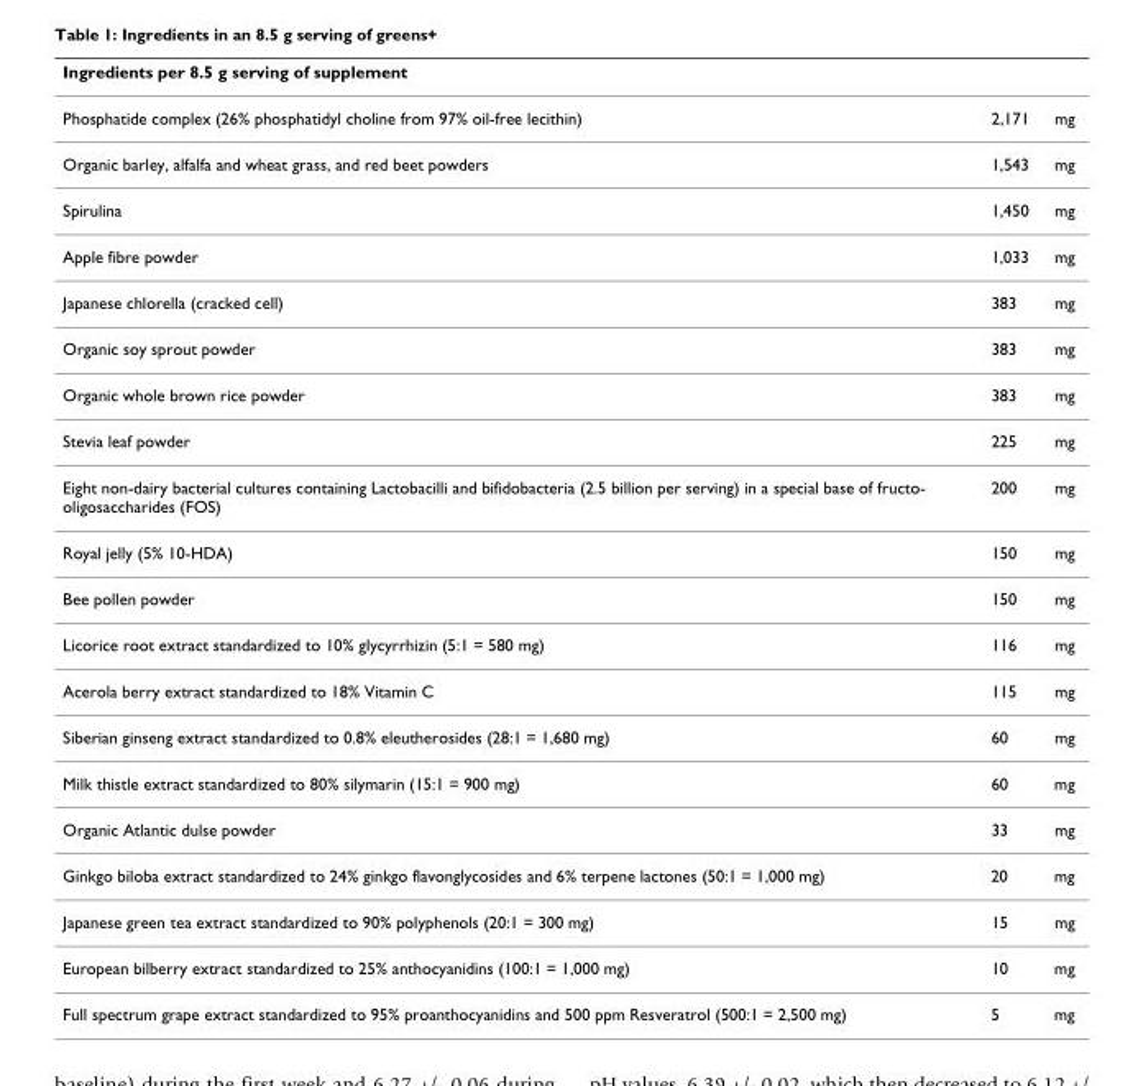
<table><thead><tr><td colspan="3">Ingredients per 8.5 g serving of supplement</td></tr><tr><td>Phosphatide complex (26% phosphatidyl choline from 97% oil-free lecithin)</td><td>2,171</td><td>mg</td></tr></thead><tbody><tr><td>Organic barley, alfalfa and wheat grass, and red beet powders</td><td>1,543</td><td>mg</td></tr><tr><td>Spirulina</td><td>1,450</td><td>mg</td></tr><tr><td>Apple fibre powder</td><td>1,033</td><td>mg</td></tr><tr><td>Japanese chlorella (cracked cell)</td><td>383</td><td>mg</td></tr><tr><td>Organic soy sprout powder</td><td>383</td><td>mg</td></tr><tr><td>Organic whole brown rice powder</td><td>383</td><td>mg</td></tr><tr><td>Stevia leaf powder</td><td>225</td><td>mg</td></tr><tr><td>Eight non-dairy bacterial cultures containing Lactobacilli and bifidobacteria (2.5 billion per serving) in a special base of fructo- oligosaccharides (FOS)</td><td>200</td><td>mg</td></tr><tr><td>Royal jelly (5% 10-HDA)</td><td>150</td><td>mg</td></tr><tr><td>Bee pollen powder</td><td>150</td><td>mg</td></tr><tr><td>Licorice root extract standardized to 10% glycyrrhizin (5:1 = 580 mg)</td><td>116</td><td>mg</td></tr><tr><td>Acerola berry extract standardized to 18% Vitamin C</td><td>115</td><td>mg</td></tr><tr><td>Siberian ginseng extract standardized to 0.8% eleutherosides (28:1 = 1,680 mg)</td><td>60</td><td>mg</td></tr><tr><td>Milk thistle extract standardized to 80% silymarin (15:1 = 900 mg)</td><td>60</td><td>mg</td></tr><tr><td>Organic Atlantic dulse powder</td><td>33</td><td>mg</td></tr><tr><td>Ginkgo biloba extract standardized to 24% ginkgo flavonglycosides and 6% terpene lactones (50:1 = 1,000 mg)</td><td>20</td><td>mg</td></tr><tr><td>Japanese green tea extract standardized to 90% polyphenols (20:1 = 300 mg)</td><td>15</td><td>mg</td></tr><tr><td>European bilberry extract standardized to 25% anthocyanidins (100:1 = 1,000 mg)</td><td>10</td><td>mg</td></tr><tr><td>Full spectrum grape extract standardized to 95% proanthocyanidins and 500 ppm Resveratrol (500:1 = 2,500 mg)</td><td>5</td><td>mg</td></tr></tbody></table>